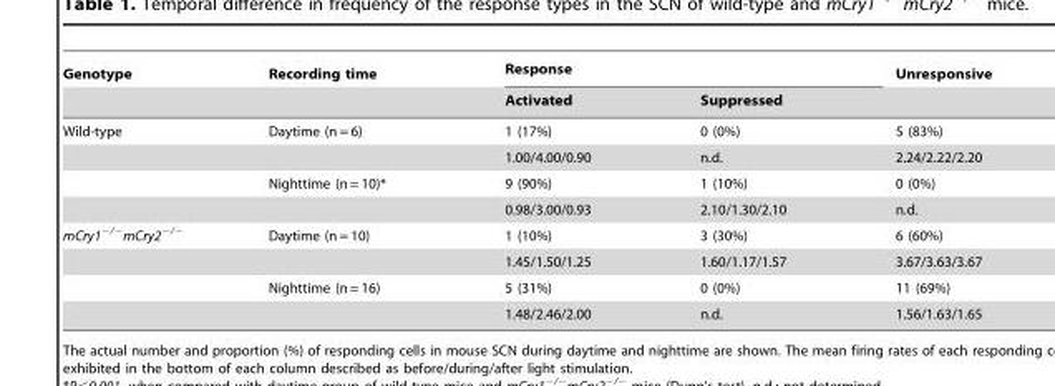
<table><thead><tr><td rowspan="2">Genotype</td><td rowspan="2">Recording time</td><td colspan="2">Response</td><td rowspan="2">Unresponsive</td></tr><tr><td>Activated</td><td>Suppressed</td></tr></thead><tbody><tr><td rowspan="4">Wild-type</td><td>Daytime (n = 6)</td><td>1 (17%)</td><td>0 (0%)</td><td>5 (83%)</td></tr><tr><td></td><td>1.00/4.00/0.90</td><td>n.d.</td><td>2.24/2.22/2.20</td></tr><tr><td>Nighttime (n = 10)*</td><td>9 (90%)</td><td>1 (10%)</td><td>0 (0%)</td></tr><tr><td></td><td>0.98/3.00/0.93</td><td>2.10/1.30/2.10</td><td>n.d.</td></tr><tr><td rowspan="4">mCry1<sup>−/−</sup>mCry2<sup>−/−</sup></td><td>Daytime (n = 10)</td><td>1 (10%)</td><td>3 (30%)</td><td>6 (60%)</td></tr><tr><td></td><td>1.45/1.50/1.25</td><td>1.60/1.17/1.57</td><td>3.67/3.63/3.67</td></tr><tr><td>Nighttime (n = 16)</td><td>5 (31%)</td><td>0 (0%)</td><td>11 (69%)</td></tr><tr><td></td><td>1.48/2.46/2.00</td><td>n.d.</td><td>1.56/1.63/1.65</td></tr></tbody></table>